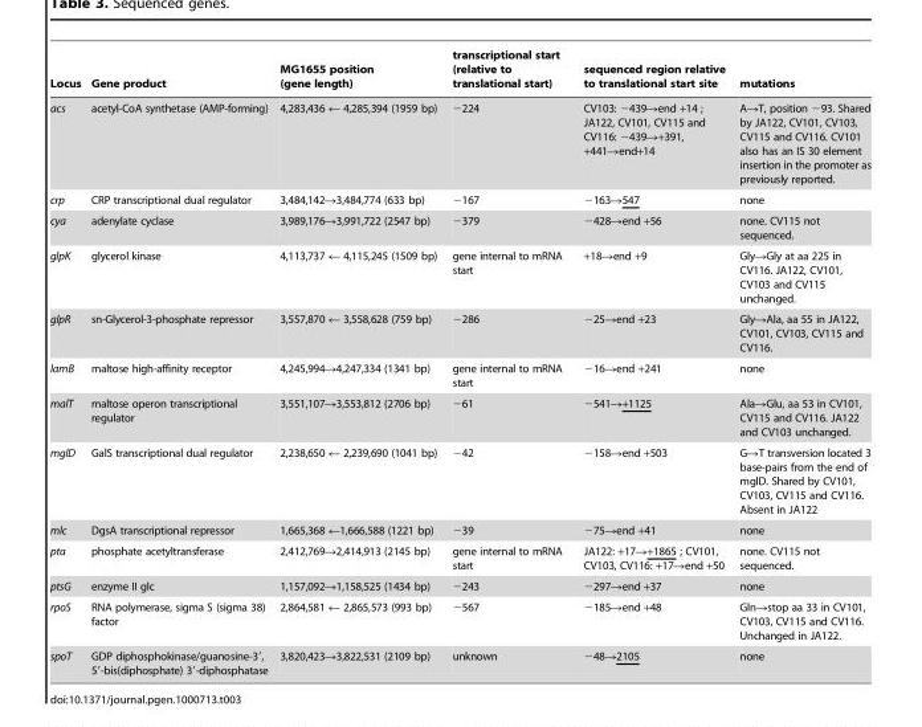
<table><thead><tr><td>Locus</td><td>Gene product</td><td>MG1655 position (gene length)</td><td>transcriptional start (relative to translational start)</td><td>sequenced region relative to translational start site</td><td>mutations</td></tr></thead><tbody><tr><td>acs</td><td>acetyl-CoA synthetase (AMP-forming)</td><td>4,283,436 ← 4,285,394 (1959 bp)</td><td>−224</td><td>CV103: −439→end +14 ; JA122, CV101, CV115 and CV116: −439→+391, +441→end+14</td><td>A→T, position −93. Shared by JA122, CV101, CV103, CV115 and CV116. CV101 also has an IS 30 element insertion in the promoter as previously reported.</td></tr><tr><td>crp</td><td>CRP transcriptional dual regulator</td><td>3,484,142→3,484,774 (633 bp)</td><td>−167</td><td>−163→547</td><td>none</td></tr><tr><td>cya</td><td>adenylate cyclase</td><td>3,989,176→3,991,722 (2547 bp)</td><td>−379</td><td>−428→end +56</td><td>none. CV115 not sequenced.</td></tr><tr><td>glpK</td><td>glycerol kinase</td><td>4,113,737 ← 4,115,245 (1509 bp)</td><td>gene internal to mRNA start</td><td>+18→end +9</td><td>Gly→Gly at aa 225 in CV116. JA122, CV101, CV103 and CV115 unchanged.</td></tr><tr><td>glpR</td><td>sn-Glycerol-3-phosphate repressor</td><td>3,557,870 ← 3,558,628 (759 bp)</td><td>−286</td><td>−25→end +23</td><td>Gly→Ala, aa 55 in JA122, CV101, CV103, CV115 and CV116.</td></tr><tr><td>lamB</td><td>maltose high-affinity receptor</td><td>4,245,994→4,247,334 (1341 bp)</td><td>gene internal to mRNA start</td><td>−16→end +241</td><td>none</td></tr><tr><td>malT</td><td>maltose operon transcriptional regulator</td><td>3,551,107→3,553,812 (2706 bp)</td><td>−61</td><td>−541→+1125</td><td>Ala→Glu, aa 53 in CV101, CV115 and CV116. JA122 and CV103 unchanged.</td></tr><tr><td>mglD</td><td>GalS transcriptional dual regulator</td><td>2,238,650 ← 2,239,690 (1041 bp)</td><td>−42</td><td>−158→end +503</td><td>G→T transversion located 3 base-pairs from the end of mglD. Shared by CV101, CV103, CV115 and CV116. Absent in JA122</td></tr><tr><td>mlc</td><td>DgsA transcriptional repressor</td><td>1,665,368 ←1,666,588 (1221 bp)</td><td>−39</td><td>−75→end +41</td><td>none</td></tr><tr><td>pta</td><td>phosphate acetyltransferase</td><td>2,412,769→2,414,913 (2145 bp)</td><td>gene internal to mRNA start</td><td>JA122: +17→+1865 ; CV101, CV103, CV116: +17→end +50</td><td>none. CV115 not sequenced.</td></tr><tr><td>ptsG</td><td>enzyme II glc</td><td>1,157,092→1,158,525 (1434 bp)</td><td>−243</td><td>−297→end +37</td><td>none</td></tr><tr><td>rpoS</td><td>RNA polymerase, sigma S (sigma 38) factor</td><td>2,864,581 ← 2,865,573 (993 bp)</td><td>−567</td><td>−185→end +48</td><td>Gln→stop aa 33 in CV101, CV103, CV115 and CV116. Unchanged in JA122.</td></tr><tr><td>spoT</td><td>GDP diphosphokinase/guanosine-3′, 5′-bis(diphosphate) 3′-diphosphatase</td><td>3,820,423→3,822,531 (2109 bp)</td><td>unknown</td><td>−48→2105</td><td>none</td></tr></tbody></table>